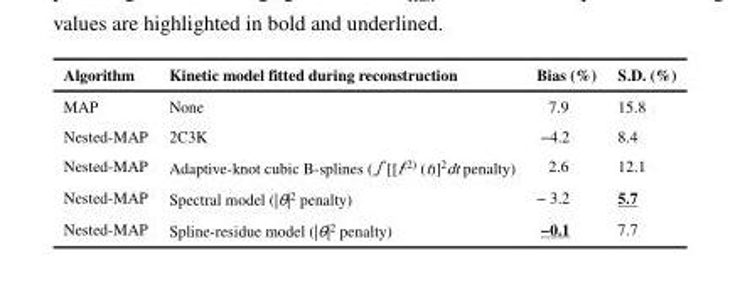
<table><thead><tr><td>Algorithm</td><td>Kinetic model fitted during reconstruction</td><td>Bias (%)</td><td>S.D. (%)</td></tr></thead><tbody><tr><td>MAP</td><td>None</td><td>7.9</td><td>15.8</td></tr><tr><td>Nested-MAP</td><td>2C3K</td><td>−4.2</td><td>8.4</td></tr><tr><td>Nested-MAP</td><td>Adaptive-knot cubic B-splines (∫ [[f<sup>(2)</sup> (t)]<sup>2</sup>dt penalty)</td><td>2.6</td><td>12.1</td></tr><tr><td>Nested-MAP</td><td>Spectral model (|θ|<sup>2</sup> penalty)</td><td>− 3.2</td><td>5.7</td></tr><tr><td>Nested-MAP</td><td>Spline-residue model (|θ|<sup>2</sup> penalty)</td><td>−0.1</td><td>7.7</td></tr></tbody></table>